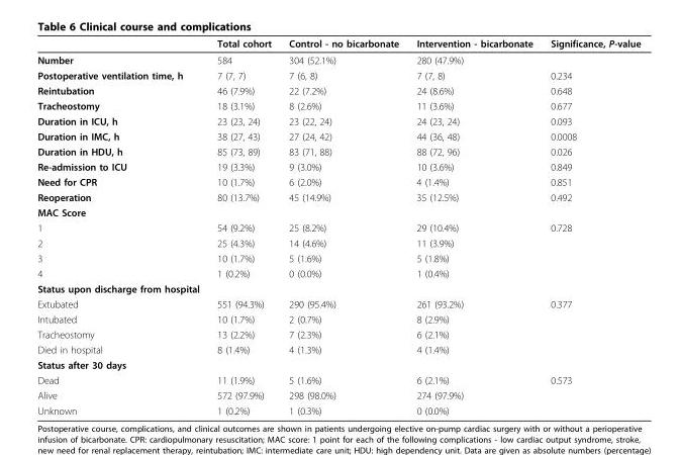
<table><thead><tr><td></td><td>Total cohort</td><td>Control - no bicarbonate</td><td>Intervention - bicarbonate</td><td>Significance, P-value</td></tr></thead><tbody><tr><td>Number</td><td>584</td><td>304 (52.1%)</td><td>280 (47.9%)</td><td></td></tr><tr><td>Postoperative ventilation time, h</td><td>7 (7, 7)</td><td>7 (6, 8)</td><td>7 (7, 8)</td><td>0.234</td></tr><tr><td>Reintubation</td><td>46 (7.9%)</td><td>22 (7.2%)</td><td>24 (8.6%)</td><td>0.648</td></tr><tr><td>Tracheostomy</td><td>18 (3.1%)</td><td>8 (2.6%)</td><td>11 (3.6%)</td><td>0.677</td></tr><tr><td>Duration in ICU, h</td><td>23 (23, 24)</td><td>23 (22, 24)</td><td>24 (23, 24)</td><td>0.093</td></tr><tr><td>Duration in IMC, h</td><td>38 (27, 43)</td><td>27 (24, 42)</td><td>44 (36, 48)</td><td>0.0008</td></tr><tr><td>Duration in HDU, h</td><td>85 (73, 89)</td><td>83 (71, 88)</td><td>88 (72, 96)</td><td>0.026</td></tr><tr><td>Re-admission to ICU</td><td>19 (3.3%)</td><td>9 (3.0%)</td><td>10 (3.6%)</td><td>0.849</td></tr><tr><td>Need for CPR</td><td>10 (1.7%)</td><td>6 (2.0%)</td><td>4 (1.4%)</td><td>0.851</td></tr><tr><td>Reoperation</td><td>80 (13.7%)</td><td>45 (14.9%)</td><td>35 (12.5%)</td><td>0.492</td></tr><tr><td colspan="5">MAC Score</td></tr><tr><td>1</td><td>54 (9.2%)</td><td>25 (8.2%)</td><td>29 (10.4%)</td><td>0.728</td></tr><tr><td>2</td><td>25 (4.3%)</td><td>14 (4.6%)</td><td>11 (3.9%)</td><td></td></tr><tr><td>3</td><td>10 (1.7%)</td><td>5 (1.6%)</td><td>5 (1.8%)</td><td></td></tr><tr><td>4</td><td>1 (0.2%)</td><td>0 (0.0%)</td><td>1 (0.4%)</td><td></td></tr><tr><td colspan="5">Status upon discharge from hospital</td></tr><tr><td>Extubated</td><td>551 (94.3%)</td><td>290 (95.4%)</td><td>261 (93.2%)</td><td>0.377</td></tr><tr><td>Intubated</td><td>10 (1.7%)</td><td>2 (0.7%)</td><td>8 (2.9%)</td><td></td></tr><tr><td>Tracheostomy</td><td>13 (2.2%)</td><td>7 (2.3%)</td><td>6 (2.1%)</td><td></td></tr><tr><td>Died in hospital</td><td>8 (1.4%)</td><td>4 (1.3%)</td><td>4 (1.4%)</td><td></td></tr><tr><td colspan="5">Status after 30 days</td></tr><tr><td>Dead</td><td>11 (1.9%)</td><td>5 (1.6%)</td><td>6 (2.1%)</td><td>0.573</td></tr><tr><td>Alive</td><td>572 (97.9%)</td><td>298 (98.0%)</td><td>274 (97.9%)</td><td></td></tr><tr><td>Unknown</td><td>1 (0.2%)</td><td>1 (0.3%)</td><td>0 (0.0%)</td><td></td></tr></tbody></table>